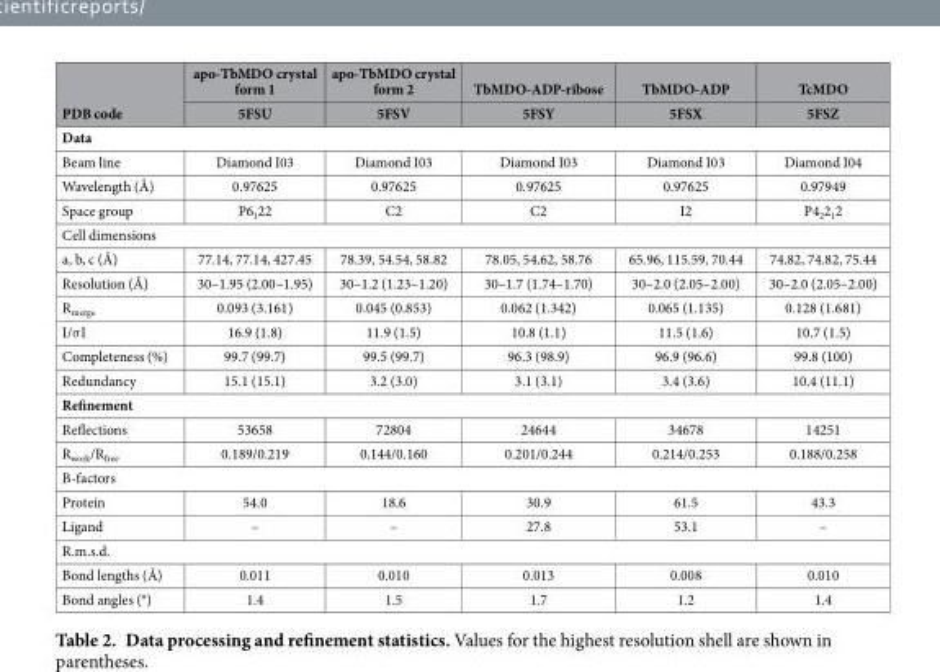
<table><thead><tr><td rowspan="2">PDB code</td><td rowspan="2">apo-TbMDO crystal form 1 5FSU</td><td rowspan="2">apo-TbMDO crystal form 2 5FSV</td><td rowspan="2">TbMDO-ADP-ribose 5FSY</td><td rowspan="2">TbMDO-ADP 5FSX</td><td rowspan="2">TcMDO 5FSZ</td></tr><tr></tr></thead><tbody><tr><td colspan="6">Data</td></tr><tr><td>Beam line</td><td>Diamond I03</td><td>Diamond I03</td><td>Diamond I03</td><td>Diamond I03</td><td>Diamond I04</td></tr><tr><td>Wavelength (Å)</td><td>0.97625</td><td>0.97625</td><td>0.97625</td><td>0.97625</td><td>0.97949</td></tr><tr><td>Space group</td><td>P6<sub>1</sub>22</td><td>C2</td><td>C2</td><td>I2</td><td>P4<sub>2</sub>2<sub>1</sub>2</td></tr><tr><td colspan="6">Cell dimensions</td></tr><tr><td>a, b, c (Å)</td><td>77.14, 77.14, 427.45</td><td>78.39, 54.54, 58.82</td><td>78.05, 54.62, 58.76</td><td>65.96, 115.59, 70.44</td><td>74.82, 74.82, 75.44</td></tr><tr><td>Resolution (Å)</td><td>30–1.95 (2.00–1.95)</td><td>30–1.2 (1.23–1.20)</td><td>30–1.7 (1.74–1.70)</td><td>30–2.0 (2.05–2.00)</td><td>30–2.0 (2.05–2.00)</td></tr><tr><td>R<sub>merge</sub></td><td>0.093 (3.161)</td><td>0.045 (0.853)</td><td>0.062 (1.342)</td><td>0.065 (1.135)</td><td>0.128 (1.681)</td></tr><tr><td>I/σ I</td><td>16.9 (1.8)</td><td>11.9 (1.5)</td><td>10.8 (1.1)</td><td>11.5 (1.6)</td><td>10.7 (1.5)</td></tr><tr><td>Completeness (%)</td><td>99.7 (99.7)</td><td>99.5 (99.7)</td><td>96.3 (98.9)</td><td>96.9 (96.6)</td><td>99.8 (100)</td></tr><tr><td>Redundancy</td><td>15.1 (15.1)</td><td>3.2 (3.0)</td><td>3.1 (3.1)</td><td>3.4 (3.6)</td><td>10.4 (11.1)</td></tr><tr><td colspan="6">Refinement</td></tr><tr><td>Reflections</td><td>53658</td><td>72804</td><td>24644</td><td>34678</td><td>14251</td></tr><tr><td>R<sub>work</sub>/R<sub>free</sub></td><td>0.189/0.219</td><td>0.144/0.160</td><td>0.201/0.244</td><td>0.214/0.253</td><td>0.188/0.258</td></tr><tr><td colspan="6">B-factors</td></tr><tr><td>Protein</td><td>54.0</td><td>18.6</td><td>30.9</td><td>61.5</td><td>43.3</td></tr><tr><td>Ligand</td><td>–</td><td>–</td><td>27.8</td><td>53.1</td><td>–</td></tr><tr><td colspan="6">R.m.s.d.</td></tr><tr><td>Bond lengths (Å)</td><td>0.011</td><td>0.010</td><td>0.013</td><td>0.008</td><td>0.010</td></tr><tr><td>Bond angles (°)</td><td>1.4</td><td>1.5</td><td>1.7</td><td>1.2</td><td>1.4</td></tr></tbody></table>